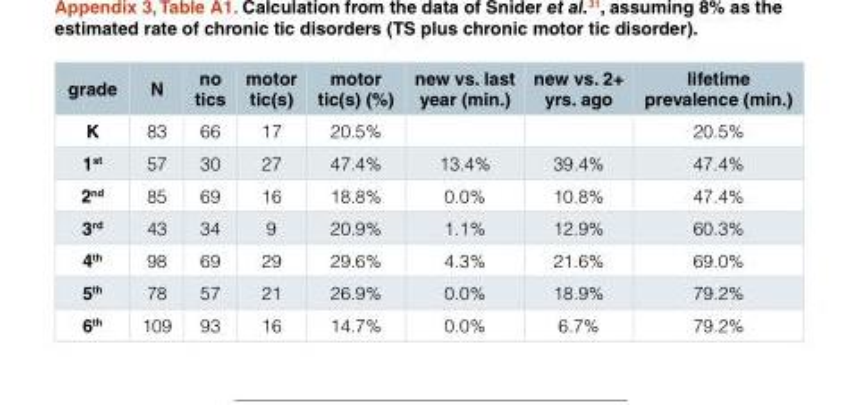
<table><thead><tr><td>grade</td><td>N</td><td>no tics</td><td>motor tic(s)</td><td>motor tic(s) (%)</td><td>new vs. last year (min.)</td><td>new vs. 2+ yrs. ago</td><td>lifetime prevalence (min.)</td></tr></thead><tbody><tr><td>K</td><td>83</td><td>66</td><td>17</td><td>20.5%</td><td></td><td></td><td>20.5%</td></tr><tr><td>1st</td><td>57</td><td>30</td><td>27</td><td>47.4%</td><td>13.4%</td><td>39.4%</td><td>47.4%</td></tr><tr><td>2nd</td><td>85</td><td>69</td><td>16</td><td>18.8%</td><td>0.0%</td><td>10.8%</td><td>47.4%</td></tr><tr><td>3rd</td><td>43</td><td>34</td><td>9</td><td>20.9%</td><td>1.1%</td><td>12.9%</td><td>60.3%</td></tr><tr><td>4th</td><td>98</td><td>69</td><td>29</td><td>29.6%</td><td>4.3%</td><td>21.6%</td><td>69.0%</td></tr><tr><td>5th</td><td>78</td><td>57</td><td>21</td><td>26.9%</td><td>0.0%</td><td>18.9%</td><td>79.2%</td></tr><tr><td>6th</td><td>109</td><td>93</td><td>16</td><td>14.7%</td><td>0.0%</td><td>6.7%</td><td>79.2%</td></tr></tbody></table>